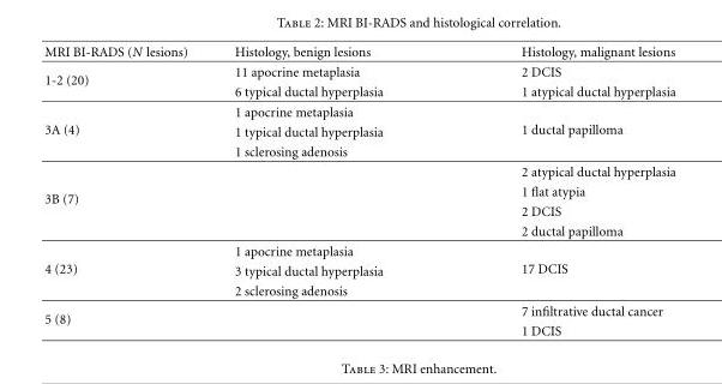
<table><thead><tr><td>MRI BI-RADS (N lesions)</td><td>Histology, benign lesions</td><td>Histology, malignant lesions</td></tr></thead><tbody><tr><td rowspan="2">1-2 (20)</td><td>11 apocrine metaplasia</td><td>2 DCIS</td></tr><tr><td>6 typical ductal hyperplasia</td><td>1 atypical ductal hyperplasia</td></tr><tr><td rowspan="3">3A (4)</td><td>1 apocrine metaplasia</td><td rowspan="3">1 ductal papilloma</td></tr><tr><td>1 typical ductal hyperplasia</td></tr><tr><td>1 sclerosing adenosis</td></tr><tr><td rowspan="4">3B (7)</td><td></td><td>2 atypical ductal hyperplasia</td></tr><tr><td></td><td>1 flat atypia</td></tr><tr><td></td><td>2 DCIS</td></tr><tr><td></td><td>2 ductal papilloma</td></tr><tr><td rowspan="3">4 (23)</td><td>1 apocrine metaplasia</td><td rowspan="3">17 DCIS</td></tr><tr><td>3 typical ductal hyperplasia</td></tr><tr><td>2 sclerosing adenosis</td></tr><tr><td rowspan="2">5 (8)</td><td></td><td>7 infiltrative ductal cancer</td></tr><tr><td></td><td>1 DCIS</td></tr></tbody></table>